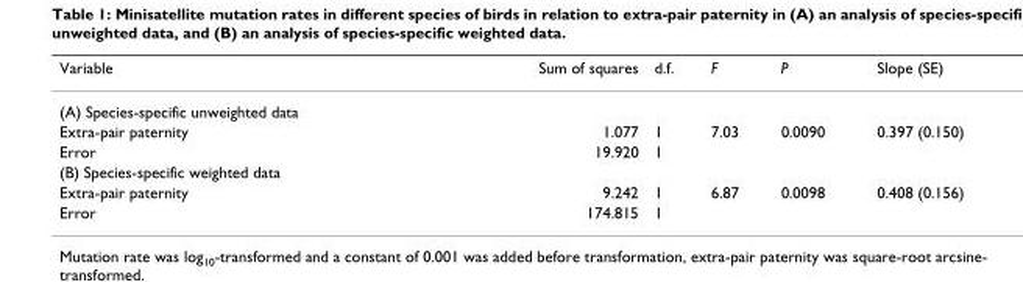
<table><thead><tr><td>Variable</td><td>Sum of squares</td><td>d.f.</td><td>F</td><td>P</td><td>Slope (SE)</td></tr></thead><tbody><tr><td colspan="6">(A) Species-specific unweighted data</td></tr><tr><td>Extra-pair paternity</td><td>1.077</td><td>1</td><td>7.03</td><td>0.0090</td><td>0.397 (0.150)</td></tr><tr><td>Error</td><td>19.920</td><td>1</td><td></td><td></td><td></td></tr><tr><td colspan="6">(B) Species-specific weighted data</td></tr><tr><td>Extra-pair paternity</td><td>9.242</td><td>1</td><td>6.87</td><td>0.0098</td><td>0.408 (0.156)</td></tr><tr><td>Error</td><td>174.815</td><td>1</td><td></td><td></td><td></td></tr></tbody></table>